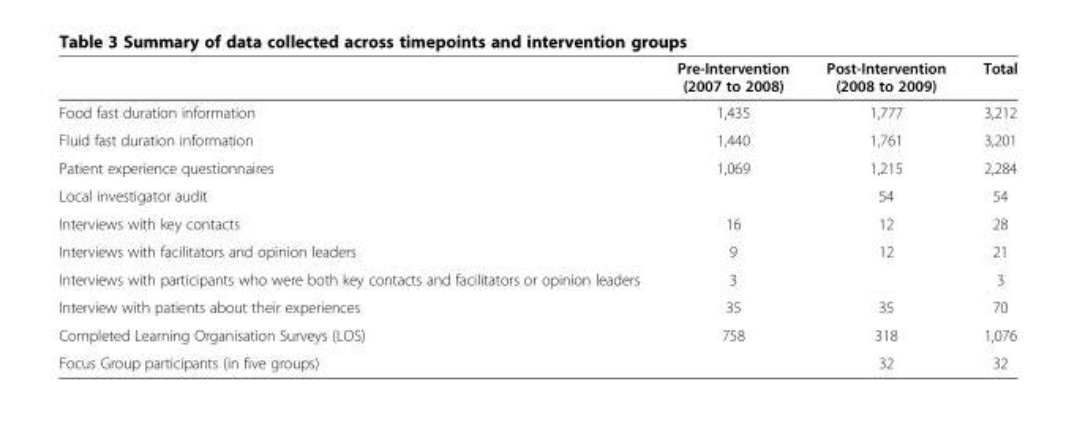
<table><thead><tr><td></td><td>Pre-Intervention (2007 to 2008)</td><td>Post-Intervention (2008 to 2009)</td><td>Total</td></tr></thead><tbody><tr><td>Food fast duration information</td><td>1,435</td><td>1,777</td><td>3,212</td></tr><tr><td>Fluid fast duration information</td><td>1,440</td><td>1,761</td><td>3,201</td></tr><tr><td>Patient experience questionnaires</td><td>1,069</td><td>1,215</td><td>2,284</td></tr><tr><td>Local investigator audit</td><td></td><td>54</td><td>54</td></tr><tr><td>Interviews with key contacts</td><td>16</td><td>12</td><td>28</td></tr><tr><td>Interviews with facilitators and opinion leaders</td><td>9</td><td>12</td><td>21</td></tr><tr><td>Interviews with participants who were both key contacts and facilitators or opinion leaders</td><td>3</td><td></td><td>3</td></tr><tr><td>Interview with patients about their experiences</td><td>35</td><td>35</td><td>70</td></tr><tr><td>Completed Learning Organisation Surveys (LOS)</td><td>758</td><td>318</td><td>1,076</td></tr><tr><td>Focus Group participants (in five groups)</td><td></td><td>32</td><td>32</td></tr></tbody></table>